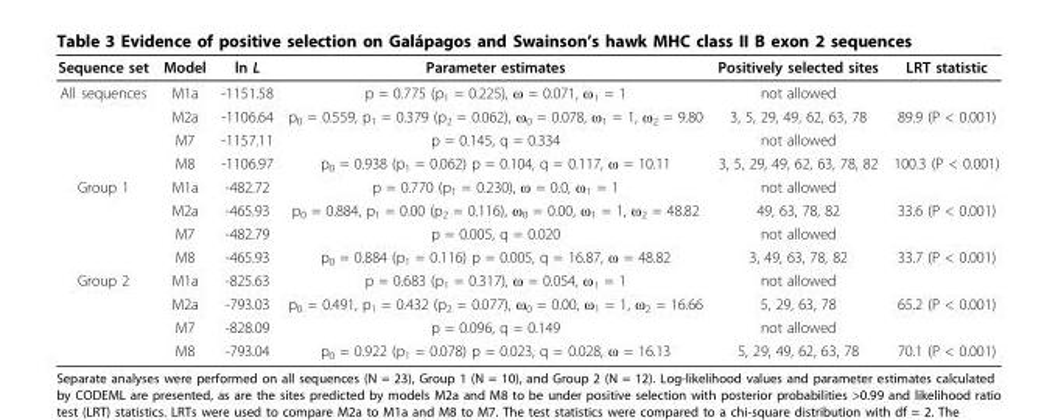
<table><thead><tr><td>Sequence set</td><td>Model</td><td>ln L</td><td>Parameter estimates</td><td>Positively selected sites</td><td>LRT statistic</td></tr></thead><tbody><tr><td rowspan="4">All sequences</td><td>M1a</td><td>-1151.58</td><td>p = 0.775 (p<sub>1</sub> = 0.225), ω = 0.071, ω<sub>1</sub> = 1</td><td>not allowed</td><td></td></tr><tr><td>M2a</td><td>-1106.64</td><td>p<sub>0</sub> = 0.559, p<sub>1</sub> = 0.379 (p<sub>2</sub> = 0.062), ω<sub>0</sub> = 0.078, ω<sub>1</sub> = 1, ω<sub>2</sub> = 9.80</td><td>3, 5, 29, 49, 62, 63, 78</td><td>89.9 (P &lt; 0.001)</td></tr><tr><td>M7</td><td>-1157.11</td><td>p = 0.145, q = 0.334</td><td>not allowed</td><td></td></tr><tr><td>M8</td><td>-1106.97</td><td>p<sub>0</sub> = 0.938 (p<sub>1</sub> = 0.062) p = 0.104, q = 0.117, ω = 10.11</td><td>3, 5, 29, 49, 62, 63, 78, 82</td><td>100.3 (P &lt; 0.001)</td></tr><tr><td rowspan="4">Group 1</td><td>M1a</td><td>-482.72</td><td>p = 0.770 (p<sub>1</sub> = 0.230), ω = 0.0, ω<sub>1</sub> = 1</td><td>not allowed</td><td></td></tr><tr><td>M2a</td><td>-465.93</td><td>p<sub>0</sub> = 0.884, p<sub>1</sub> = 0.00 (p<sub>2</sub> = 0.116), ω<sub>0</sub> = 0.00, ω<sub>1</sub> = 1, ω<sub>2</sub> = 48.82</td><td>49, 63, 78, 82</td><td>33.6 (P &lt; 0.001)</td></tr><tr><td>M7</td><td>-482.79</td><td>p = 0.005, q = 0.020</td><td>not allowed</td><td></td></tr><tr><td>M8</td><td>-465.93</td><td>p<sub>0</sub> = 0.884 (p<sub>1</sub> = 0.116) p = 0.005, q = 16.87, ω = 48.82</td><td>3, 49, 63, 78, 82</td><td>33.7 (P &lt; 0.001)</td></tr><tr><td rowspan="4">Group 2</td><td>M1a</td><td>-825.63</td><td>p = 0.683 (p<sub>1</sub> = 0.317), ω = 0.054, ω<sub>1</sub> = 1</td><td>not allowed</td><td></td></tr><tr><td>M2a</td><td>-793.03</td><td>p<sub>0</sub> = 0.491, p<sub>1</sub> = 0.432 (p<sub>2</sub> = 0.077), ω<sub>0</sub> = 0.00, ω<sub>1</sub> = 1, ω<sub>2</sub> = 16.66</td><td>5, 29, 63, 78</td><td>65.2 (P &lt; 0.001)</td></tr><tr><td>M7</td><td>-828.09</td><td>p = 0.096, q = 0.149</td><td>not allowed</td><td></td></tr><tr><td>M8</td><td>-793.04</td><td>p<sub>0</sub> = 0.922 (p<sub>1</sub> = 0.078) p = 0.023, q = 0.028, ω = 16.13</td><td>5, 29, 49, 62, 63, 78</td><td>70.1 (P &lt; 0.001)</td></tr></tbody></table>